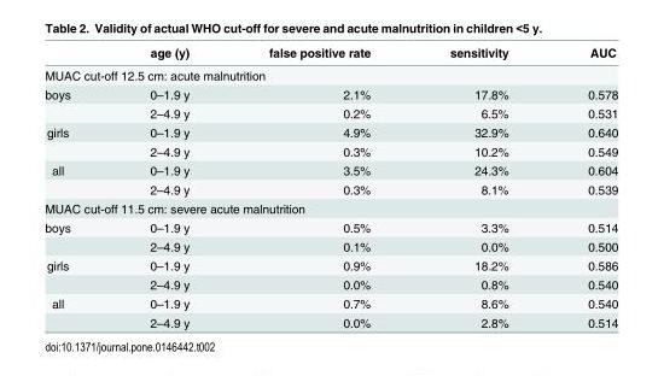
<table><thead><tr><td></td><td>age (y)</td><td>false positive rate</td><td>sensitivity</td><td>AUC</td></tr></thead><tbody><tr><td colspan="5">MUAC cut-off 12.5 cm: acute malnutrition</td></tr><tr><td rowspan="2">boys</td><td>0–1.9 y</td><td>2.1%</td><td>17.8%</td><td>0.578</td></tr><tr><td>2–4.9 y</td><td>0.2%</td><td>6.5%</td><td>0.531</td></tr><tr><td rowspan="2">girls</td><td>0–1.9 y</td><td>4.9%</td><td>32.9%</td><td>0.640</td></tr><tr><td>2–4.9 y</td><td>0.3%</td><td>10.2%</td><td>0.549</td></tr><tr><td rowspan="2">all</td><td>0–1.9 y</td><td>3.5%</td><td>24.3%</td><td>0.604</td></tr><tr><td>2–4.9 y</td><td>0.3%</td><td>8.1%</td><td>0.539</td></tr><tr><td colspan="5">MUAC cut-off 11.5 cm: severe acute malnutrition</td></tr><tr><td rowspan="2">boys</td><td>0–1.9 y</td><td>0.5%</td><td>3.3%</td><td>0.514</td></tr><tr><td>2–4.9 y</td><td>0.1%</td><td>0.0%</td><td>0.500</td></tr><tr><td rowspan="2">girls</td><td>0–1.9 y</td><td>0.9%</td><td>18.2%</td><td>0.586</td></tr><tr><td>2–4.9 y</td><td>0.0%</td><td>0.8%</td><td>0.540</td></tr><tr><td rowspan="2">all</td><td>0–1.9 y</td><td>0.7%</td><td>8.6%</td><td>0.540</td></tr><tr><td>2–4.9 y</td><td>0.0%</td><td>2.8%</td><td>0.514</td></tr></tbody></table>